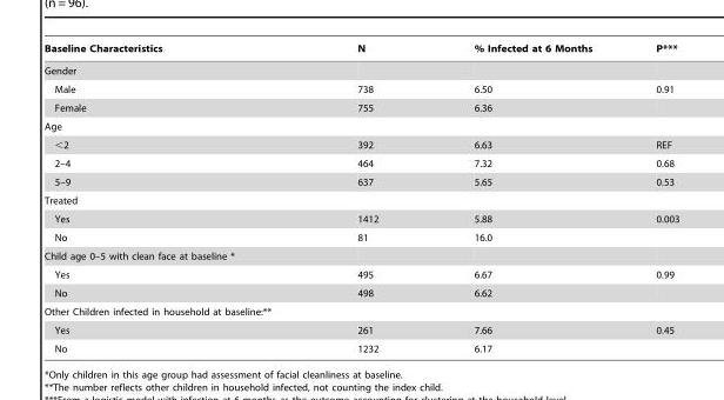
<table><thead><tr><td>Baseline Characteristics</td><td>N</td><td>% Infected at 6 Months</td><td>P***</td></tr></thead><tbody><tr><td colspan="4">Gender</td></tr><tr><td>Male</td><td>738</td><td>6.50</td><td>0.91</td></tr><tr><td>Female</td><td>755</td><td>6.36</td><td></td></tr><tr><td colspan="4">Age</td></tr><tr><td>&lt;2</td><td>392</td><td>6.63</td><td>REF</td></tr><tr><td>2–4</td><td>464</td><td>7.32</td><td>0.68</td></tr><tr><td>5–9</td><td>637</td><td>5.65</td><td>0.53</td></tr><tr><td colspan="4">Treated</td></tr><tr><td>Yes</td><td>1412</td><td>5.88</td><td>0.003</td></tr><tr><td>No</td><td>81</td><td>16.0</td><td></td></tr><tr><td colspan="4">Child age 0–5 with clean face at baseline *</td></tr><tr><td>Yes</td><td>495</td><td>6.67</td><td>0.99</td></tr><tr><td>No</td><td>498</td><td>6.62</td><td></td></tr><tr><td colspan="4">Other Children infected in household at baseline:**</td></tr><tr><td>Yes</td><td>261</td><td>7.66</td><td>0.45</td></tr><tr><td>No</td><td>1232</td><td>6.17</td><td></td></tr></tbody></table>